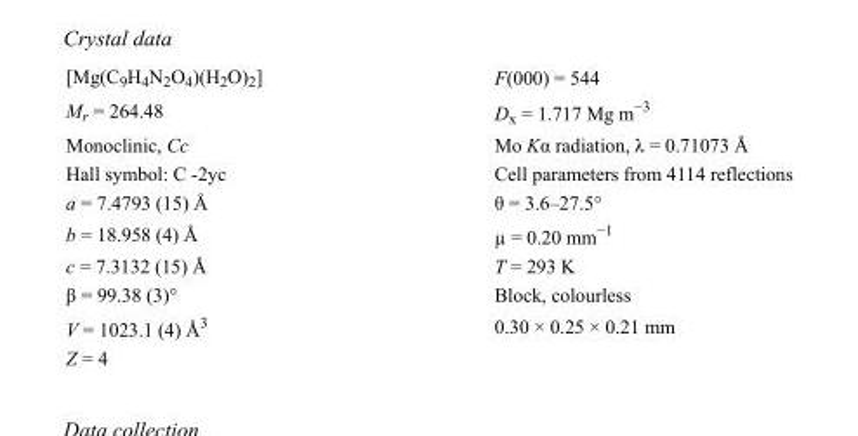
<table><tbody><tr><td>[Mg(C<sub>9</sub>H<sub>4</sub>N<sub>2</sub>O<sub>4</sub>)(H<sub>2</sub>O)<sub>2</sub>]</td><td>F(000) = 544</td></tr><tr><td>M<sub>r</sub> = 264.48</td><td>D<sub>x</sub> = 1.717 Mg m<sup>−3</sup></td></tr><tr><td>Monoclinic, Cc</td><td>Mo Kα radiation, λ = 0.71073 Å</td></tr><tr><td>Hall symbol: C -2yc</td><td>Cell parameters from 4114 reflections</td></tr><tr><td>a = 7.4793 (15) Å</td><td>θ = 3.6–27.5°</td></tr><tr><td>b = 18.958 (4) Å</td><td>µ = 0.20 mm<sup>−1</sup></td></tr><tr><td>c = 7.3132 (15) Å</td><td>T = 293 K</td></tr><tr><td>β = 99.38 (3)°</td><td>Block, colourless</td></tr><tr><td>V = 1023.1 (4) Å<sup>3</sup></td><td>0.30 × 0.25 × 0.21 mm</td></tr><tr><td>Z = 4</td><td></td></tr></tbody></table>